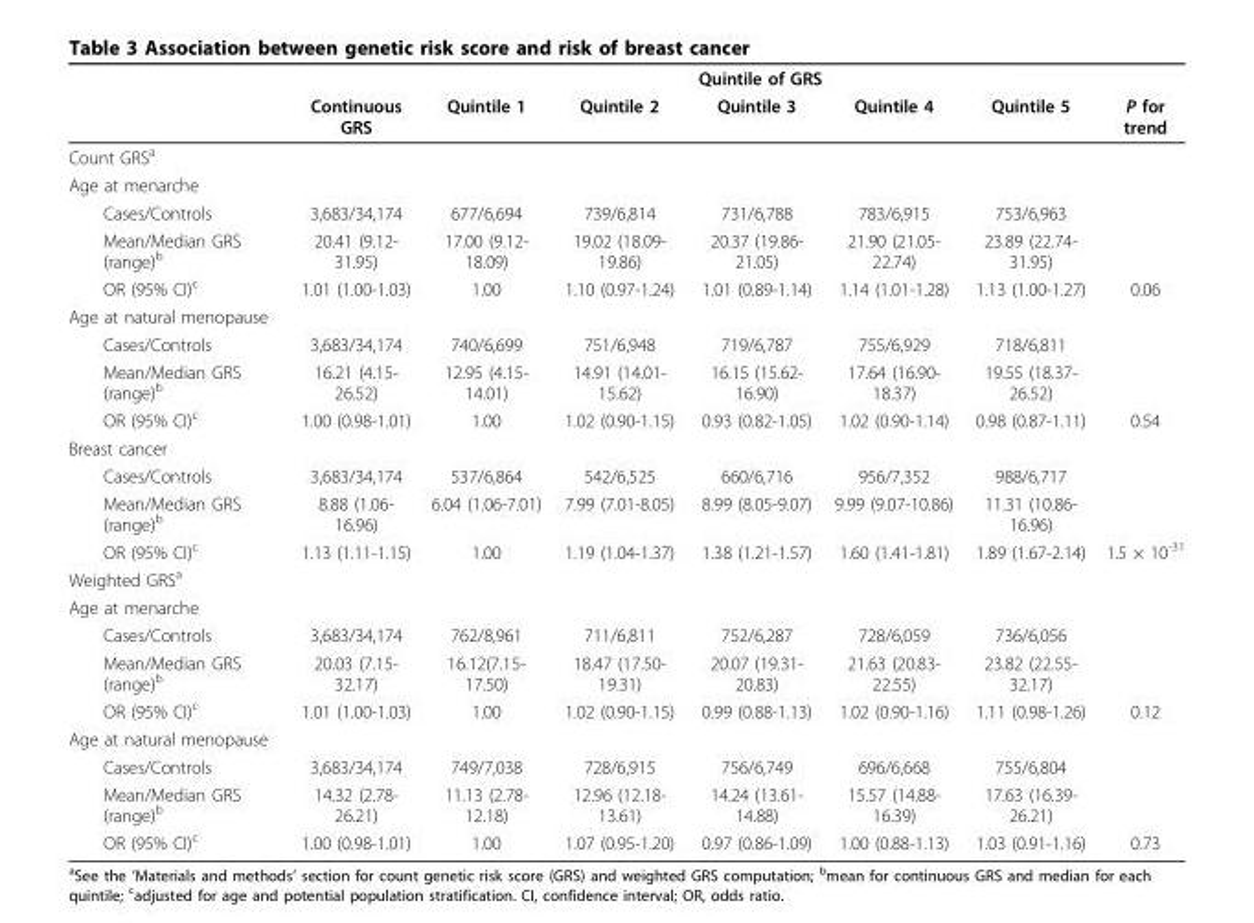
<table><thead><tr><td rowspan="2"></td><td rowspan="2">Continuous GRS</td><td colspan="5">Quintile of GRS</td><td rowspan="2">P for trend</td></tr><tr><td>Quintile 1</td><td>Quintile 2</td><td>Quintile 3</td><td>Quintile 4</td><td>Quintile 5</td></tr></thead><tbody><tr><td colspan="8">Count GRS<sup>a</sup></td></tr><tr><td colspan="8">Age at menarche</td></tr><tr><td>Cases/Controls</td><td>3,683/34,174</td><td>677/6,694</td><td>739/6,814</td><td>731/6,788</td><td>783/6,915</td><td>753/6,963</td><td></td></tr><tr><td>Mean/Median GRS (range)<sup>b</sup></td><td>20.41 (9.12- 31.95)</td><td>17.00 (9.12- 18.09)</td><td>19.02 (18.09- 19.86)</td><td>20.37 (19.86- 21.05)</td><td>21.90 (21.05- 22.74)</td><td>23.89 (22.74- 31.95)</td><td></td></tr><tr><td>OR (95% CI)<sup>c</sup></td><td>1.01 (1.00-1.03)</td><td>1.00</td><td>1.10 (0.97-1.24)</td><td>1.01 (0.89-1.14)</td><td>1.14 (1.01-1.28)</td><td>1.13 (1.00-1.27)</td><td>0.06</td></tr><tr><td colspan="8">Age at natural menopause</td></tr><tr><td>Cases/Controls</td><td>3,683/34,174</td><td>740/6,699</td><td>751/6,948</td><td>719/6,787</td><td>755/6,929</td><td>718/6,811</td><td></td></tr><tr><td>Mean/Median GRS (range)<sup>b</sup></td><td>16.21 (4.15- 26.52)</td><td>12.95 (4.15- 14.01)</td><td>14.91 (14.01- 15.62)</td><td>16.15 (15.62- 16.90)</td><td>17.64 (16.90- 18.37)</td><td>19.55 (18.37- 26.52)</td><td></td></tr><tr><td>OR (95% CI)<sup>c</sup></td><td>1.00 (0.98-1.01)</td><td>1.00</td><td>1.02 (0.90-1.15)</td><td>0.93 (0.82-1.05)</td><td>1.02 (0.90-1.14)</td><td>0.98 (0.87-1.11)</td><td>0.54</td></tr><tr><td colspan="8">Breast cancer</td></tr><tr><td>Cases/Controls</td><td>3,683/34,174</td><td>537/6,864</td><td>542/6,525</td><td>660/6,716</td><td>956/7,352</td><td>988/6,717</td><td></td></tr><tr><td>Mean/Median GRS (range)<sup>b</sup></td><td>8.88 (1.06- 16.96)</td><td>6.04 (1.06-7.01)</td><td>7.99 (7.01-8.05)</td><td>8.99 (8.05-9.07)</td><td>9.99 (9.07-10.86)</td><td>11.31 (10.86- 16.96)</td><td></td></tr><tr><td>OR (95% CI)<sup>c</sup></td><td>1.13 (1.11-1.15)</td><td>1.00</td><td>1.19 (1.04-1.37)</td><td>1.38 (1.21-1.57)</td><td>1.60 (1.41-1.81)</td><td>1.89 (1.67-2.14)</td><td>1.5 × 10<sup>-31</sup></td></tr><tr><td colspan="8">Weighted GRS<sup>a</sup></td></tr><tr><td colspan="8">Age at menarche</td></tr><tr><td>Cases/Controls</td><td>3,683/34,174</td><td>762/8,961</td><td>711/6,811</td><td>752/6,287</td><td>728/6,059</td><td>736/6,056</td><td></td></tr><tr><td>Mean/Median GRS (range)<sup>b</sup></td><td>20.03 (7.15- 32.17)</td><td>16.12(7.15- 17.50)</td><td>18.47 (17.50- 19.31)</td><td>20.07 (19.31- 20.83)</td><td>21.63 (20.83- 22.55)</td><td>23.82 (22.55- 32.17)</td><td></td></tr><tr><td>OR (95% CI)<sup>c</sup></td><td>1.01 (1.00-1.03)</td><td>1.00</td><td>1.02 (0.90-1.15)</td><td>0.99 (0.88-1.13)</td><td>1.02 (0.90-1.16)</td><td>1.11 (0.98-1.26)</td><td>0.12</td></tr><tr><td colspan="8">Age at natural menopause</td></tr><tr><td>Cases/Controls</td><td>3,683/34,174</td><td>749/7,038</td><td>728/6,915</td><td>756/6,749</td><td>696/6,668</td><td>755/6,804</td><td></td></tr><tr><td>Mean/Median GRS (range)<sup>b</sup></td><td>14.32 (2.78- 26.21)</td><td>11.13 (2.78- 12.18)</td><td>12.96 (12.18- 13.61)</td><td>14.24 (13.61- 14.88)</td><td>15.57 (14.88- 16.39)</td><td>17.63 (16.39- 26.21)</td><td></td></tr><tr><td>OR (95% CI)<sup>c</sup></td><td>1.00 (0.98-1.01)</td><td>1.00</td><td>1.07 (0.95-1.20)</td><td>0.97 (0.86-1.09)</td><td>1.00 (0.88-1.13)</td><td>1.03 (0.91-1.16)</td><td>0.73</td></tr></tbody></table>